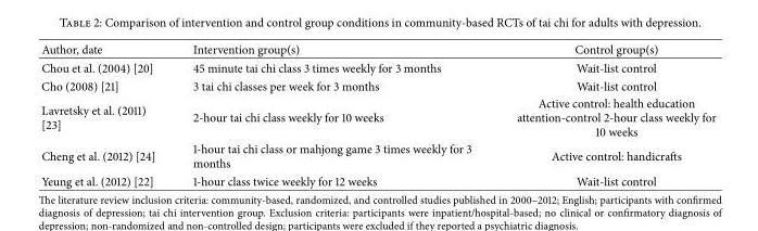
<table><thead><tr><td>Author, date</td><td>Intervention group(s)</td><td>Control group(s)</td></tr></thead><tbody><tr><td>Chou et al. (2004) [20]</td><td>45 minute tai chi class 3 times weekly for 3 months</td><td>Wait-list control</td></tr><tr><td>Cho (2008) [21]</td><td>3 tai chi classes per week for 3 months</td><td>Wait-list control</td></tr><tr><td>Lavretsky et al. (2011) [23]</td><td>2-hour tai chi class weekly for 10 weeks</td><td>Active control: health education attention-control 2-hour class weekly for 10 weeks</td></tr><tr><td>Cheng et al. (2012) [24]</td><td>1-hour tai chi class or mahjong game 3 times weekly for 3 months</td><td>Active control: handicrafts</td></tr><tr><td>Yeung et al. (2012) [22]</td><td>1-hour class twice weekly for 12 weeks</td><td>Wait-list control</td></tr></tbody></table>